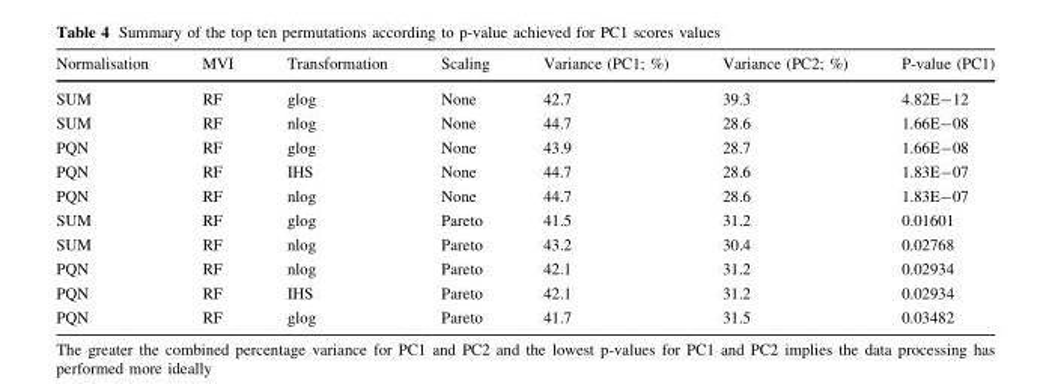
<table><thead><tr><td>Normalisation</td><td>MVI</td><td>Transformation</td><td>Scaling</td><td>Variance (PC1; %)</td><td>Variance (PC2; %)</td><td>P-value (PC1)</td></tr></thead><tbody><tr><td>SUM</td><td>RF</td><td>glog</td><td>None</td><td>42.7</td><td>39.3</td><td>4.82E-12</td></tr><tr><td>SUM</td><td>RF</td><td>nlog</td><td>None</td><td>44.7</td><td>28.6</td><td>1.66E-08</td></tr><tr><td>PQN</td><td>RF</td><td>glog</td><td>None</td><td>43.9</td><td>28.7</td><td>1.66E-08</td></tr><tr><td>PQN</td><td>RF</td><td>IHS</td><td>None</td><td>44.7</td><td>28.6</td><td>1.83E-07</td></tr><tr><td>PQN</td><td>RF</td><td>nlog</td><td>None</td><td>44.7</td><td>28.6</td><td>1.83E-07</td></tr><tr><td>SUM</td><td>RF</td><td>glog</td><td>Pareto</td><td>41.5</td><td>31.2</td><td>0.01601</td></tr><tr><td>SUM</td><td>RF</td><td>nlog</td><td>Pareto</td><td>43.2</td><td>30.4</td><td>0.02768</td></tr><tr><td>PQN</td><td>RF</td><td>nlog</td><td>Pareto</td><td>42.1</td><td>31.2</td><td>0.02934</td></tr><tr><td>PQN</td><td>RF</td><td>IHS</td><td>Pareto</td><td>42.1</td><td>31.2</td><td>0.02934</td></tr><tr><td>PQN</td><td>RF</td><td>glog</td><td>Pareto</td><td>41.7</td><td>31.5</td><td>0.03482</td></tr></tbody></table>